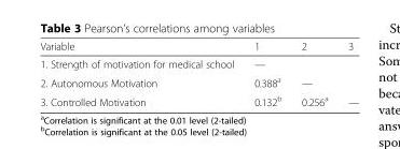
<table><thead><tr><td>Variable</td><td>1</td><td>2</td><td>3</td></tr></thead><tbody><tr><td>1. Strength of motivation for medical school</td><td>—</td><td></td><td></td></tr><tr><td>2. Autonomous Motivation</td><td>0.388<sup>a</sup></td><td>—</td><td></td></tr><tr><td>3. Controlled Motivation</td><td>0.132<sup>b</sup></td><td>0.256<sup>a</sup></td><td>—</td></tr></tbody></table>